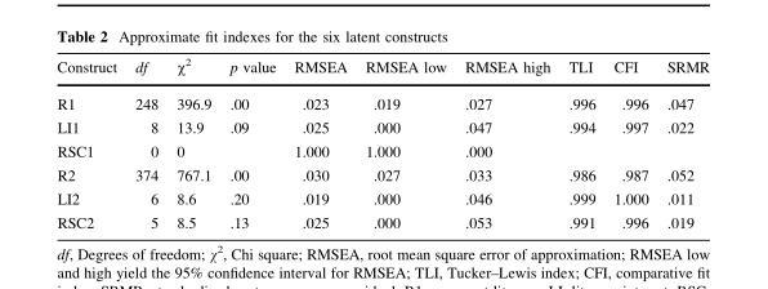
<table><thead><tr><td>Construct</td><td>df</td><td>χ<sup>2</sup></td><td>p value</td><td>RMSEA</td><td>RMSEA low</td><td>RMSEA high</td><td>TLI</td><td>CFI</td><td>SRMR</td></tr></thead><tbody><tr><td>R1</td><td>248</td><td>396.9</td><td>.00</td><td>.023</td><td>.019</td><td>.027</td><td>.996</td><td>.996</td><td>.047</td></tr><tr><td>LI1</td><td>8</td><td>13.9</td><td>.09</td><td>.025</td><td>.000</td><td>.047</td><td>.994</td><td>.997</td><td>.022</td></tr><tr><td>RSC1</td><td>0</td><td>0</td><td></td><td>1.000</td><td>1.000</td><td>.000</td><td></td><td></td><td></td></tr><tr><td>R2</td><td>374</td><td>767.1</td><td>.00</td><td>.030</td><td>.027</td><td>.033</td><td>.986</td><td>.987</td><td>.052</td></tr><tr><td>LI2</td><td>6</td><td>8.6</td><td>.20</td><td>.019</td><td>.000</td><td>.046</td><td>.999</td><td>1.000</td><td>.011</td></tr><tr><td>RSC2</td><td>5</td><td>8.5</td><td>.13</td><td>.025</td><td>.000</td><td>.053</td><td>.991</td><td>.996</td><td>.019</td></tr></tbody></table>